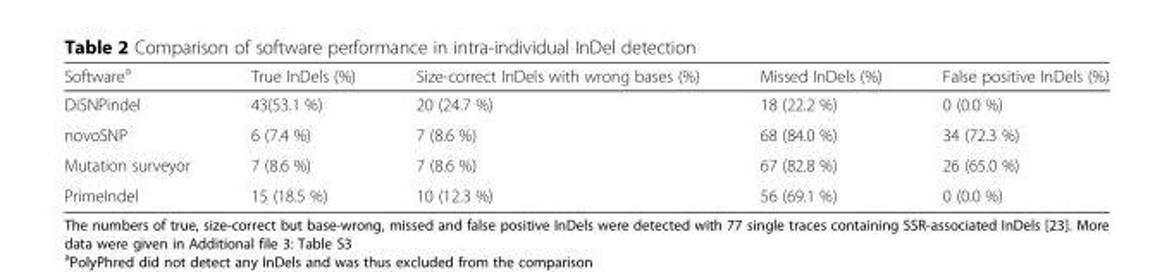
<table><thead><tr><td>Software<sup>a</sup></td><td>True InDels (%)</td><td>Size-correct InDels with wrong bases (%)</td><td>Missed InDels (%)</td><td>False positive InDels (%)</td></tr></thead><tbody><tr><td>DiSNPindel</td><td>43(53.1 %)</td><td>20 (24.7 %)</td><td>18 (22.2 %)</td><td>0 (0.0 %)</td></tr><tr><td>novoSNP</td><td>6 (7.4 %)</td><td>7 (8.6 %)</td><td>68 (84.0 %)</td><td>34 (72.3 %)</td></tr><tr><td>Mutation surveyor</td><td>7 (8.6 %)</td><td>7 (8.6 %)</td><td>67 (82.8 %)</td><td>26 (65.0 %)</td></tr><tr><td>PrimeIndel</td><td>15 (18.5 %)</td><td>10 (12.3 %)</td><td>56 (69.1 %)</td><td>0 (0.0 %)</td></tr></tbody></table>